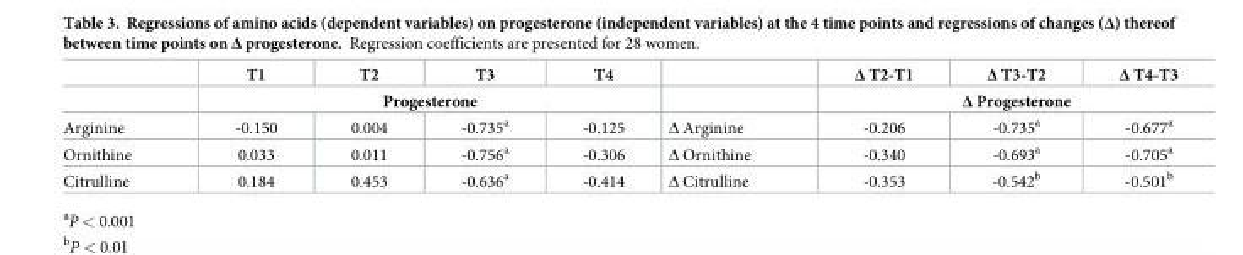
<table><thead><tr><td rowspan="2"></td><td>T1</td><td>T2</td><td>T3</td><td>T4</td><td rowspan="2"></td><td>Δ T2-T1</td><td>Δ T3-T2</td><td>Δ T4-T3</td></tr><tr><td colspan="4">Progesterone</td><td colspan="3">Δ Progesterone</td></tr></thead><tbody><tr><td>Arginine</td><td>-0.150</td><td>0.004</td><td>-0.735<sup>a</sup></td><td>-0.125</td><td>Δ Arginine</td><td>-0.206</td><td>-0.735<sup>a</sup></td><td>-0.677<sup>a</sup></td></tr><tr><td>Ornithine</td><td>0.033</td><td>0.011</td><td>-0.756<sup>a</sup></td><td>-0.306</td><td>Δ Ornithine</td><td>-0.340</td><td>-0.693<sup>a</sup></td><td>-0.705<sup>a</sup></td></tr><tr><td>Citrulline</td><td>0.184</td><td>0.453</td><td>-0.636<sup>a</sup></td><td>-0.414</td><td>Δ Citrulline</td><td>-0.353</td><td>-0.542<sup>b</sup></td><td>-0.501<sup>b</sup></td></tr></tbody></table>